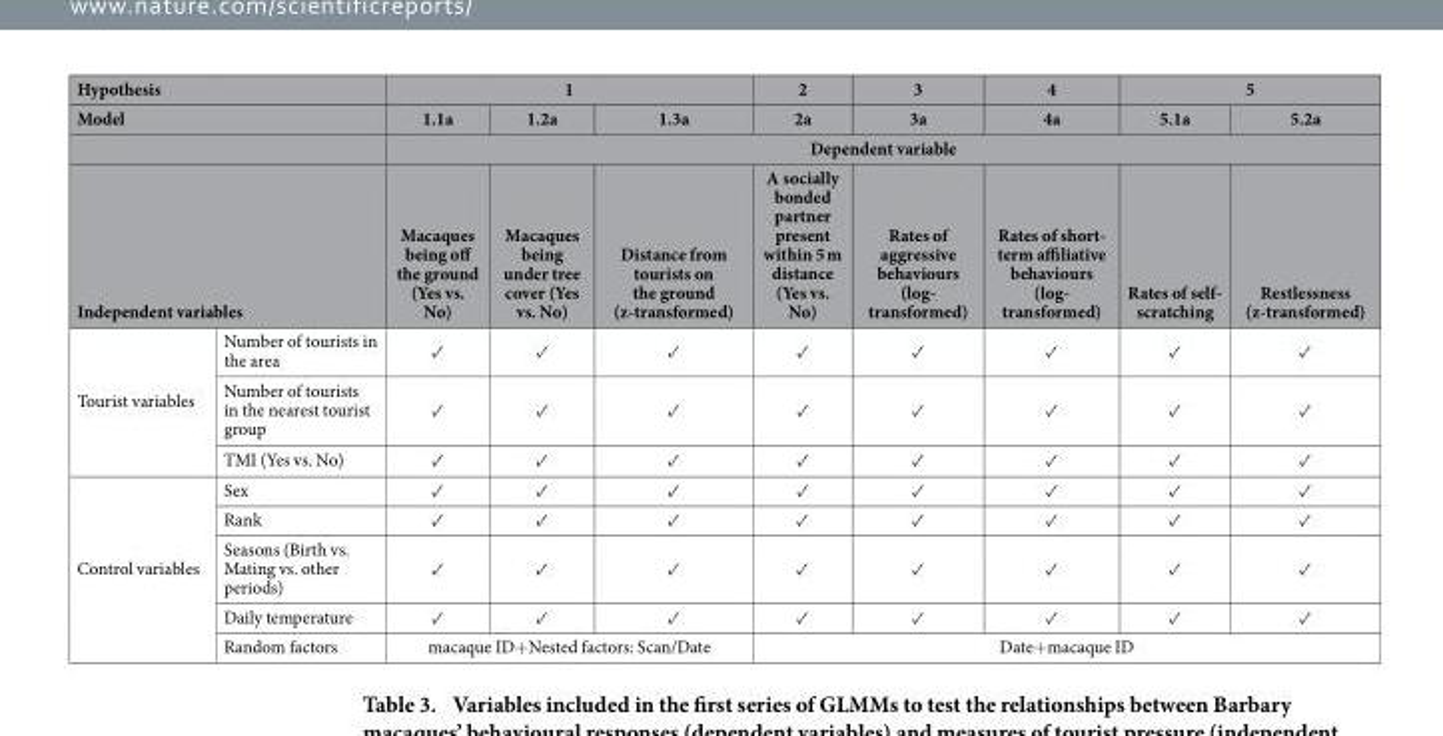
<table><thead><tr><td rowspan="2" colspan="2">Hypothesis Model</td><td colspan="3">1</td><td rowspan="2">2 2a</td><td rowspan="2">3 3a</td><td rowspan="2">4 4a</td><td colspan="2">5</td></tr><tr><td>1.1a</td><td>1.2a</td><td>1.3a</td><td>5.1a</td><td>5.2a</td></tr><tr><td></td><td></td><td colspan="8">Dependent variable</td></tr><tr><td colspan="2">Independent variables</td><td>Macaques being off the ground (Yes vs. No)</td><td>Macaques being under tree cover (Yes vs. No)</td><td>Distance from tourists on the ground (z-transformed)</td><td>A socially bonded partner present within 5 m distance (Yes vs. No)</td><td>Rates of aggressive behaviours (log- transformed)</td><td>Rates of short- term affiliative behaviours (log- transformed)</td><td>Rates of self- scratching</td><td>Restlessness (z-transformed)</td></tr></thead><tbody><tr><td rowspan="3">Tourist variables</td><td>Number of tourists in the area</td><td>✓</td><td>✓</td><td>✓</td><td>✓</td><td>✓</td><td>✓</td><td>✓</td><td>✓</td></tr><tr><td>Number of tourists in the nearest tourist group</td><td>✓</td><td>✓</td><td>✓</td><td>✓</td><td>✓</td><td>✓</td><td>✓</td><td>✓</td></tr><tr><td>TMI (Yes vs. No)</td><td>✓</td><td>✓</td><td>✓</td><td>✓</td><td>✓</td><td>✓</td><td>✓</td><td>✓</td></tr><tr><td rowspan="5">Control variables</td><td>Sex</td><td>✓</td><td>✓</td><td>✓</td><td>✓</td><td>✓</td><td>✓</td><td>✓</td><td>✓</td></tr><tr><td>Rank</td><td>✓</td><td>✓</td><td>✓</td><td>✓</td><td>✓</td><td>✓</td><td>✓</td><td>✓</td></tr><tr><td>Seasons (Birth vs. Mating vs. other periods)</td><td>✓</td><td>✓</td><td>✓</td><td>✓</td><td>✓</td><td>✓</td><td>✓</td><td>✓</td></tr><tr><td>Daily temperature</td><td>✓</td><td>✓</td><td>✓</td><td>✓</td><td>✓</td><td>✓</td><td>✓</td><td>✓</td></tr><tr><td>Random factors</td><td colspan="3">macaque ID+ Nested factors: Scan/Date</td><td colspan="5">Date+ macaque ID</td></tr></tbody></table>